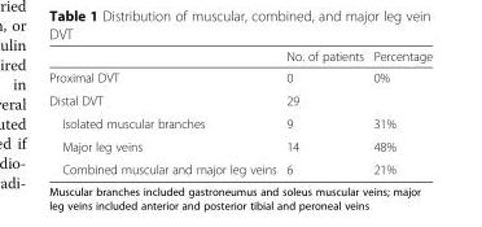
<table><thead><tr><td></td><td>No. of patients</td><td>Percentage</td></tr></thead><tbody><tr><td>Proximal DVT</td><td>0</td><td>0%</td></tr><tr><td>Distal DVT</td><td>29</td><td></td></tr><tr><td>Isolated muscular branches</td><td>9</td><td>31%</td></tr><tr><td>Major leg veins</td><td>14</td><td>48%</td></tr><tr><td>Combined muscular and major leg veins</td><td>6</td><td>21%</td></tr></tbody></table>